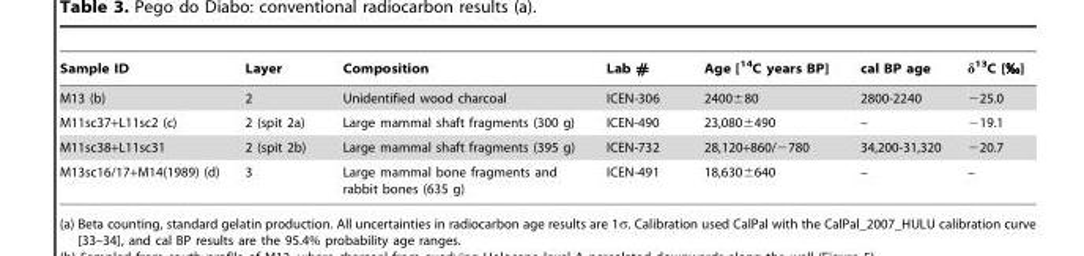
<table><thead><tr><td>Sample ID</td><td>Layer</td><td>Composition</td><td>Lab #</td><td>Age [<sup>14</sup>C years BP]</td><td>cal BP age</td><td>δ<sup>13</sup>C [‰]</td></tr></thead><tbody><tr><td>M13 (b)</td><td>2</td><td>Unidentified wood charcoal</td><td>ICEN-306</td><td>2400±80</td><td>2800-2240</td><td>−25.0</td></tr><tr><td>M11sc37+L11sc2 (c)</td><td>2 (spit 2a)</td><td>Large mammal shaft fragments (300 g)</td><td>ICEN-490</td><td>23,080±490</td><td>–</td><td>−19.1</td></tr><tr><td>M11sc38+L11sc31</td><td>2 (spit 2b)</td><td>Large mammal shaft fragments (395 g)</td><td>ICEN-732</td><td>28,120+860/−780</td><td>34,200-31,320</td><td>−20.7</td></tr><tr><td>M13sc16/17+M14(1989) (d)</td><td>3</td><td>Large mammal bone fragments and rabbit bones (635 g)</td><td>ICEN-491</td><td>18,630±640</td><td>–</td><td>–</td></tr></tbody></table>